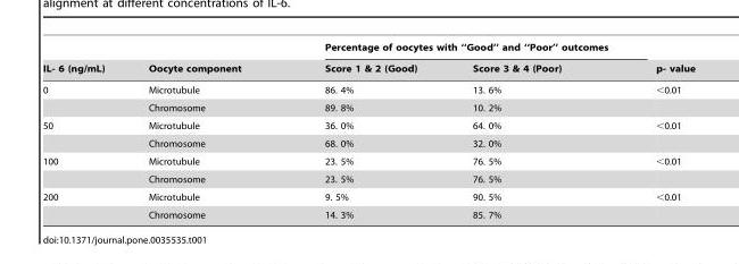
<table><thead><tr><td rowspan="2">IL- 6 (ng/mL)</td><td rowspan="2">Oocyte component</td><td colspan="2">Percentage of oocytes with ‘‘Good’’ and ‘‘Poor’’ outcomes</td><td rowspan="2">p- value</td></tr><tr><td>Score 1 &amp; 2 (Good)</td><td>Score 3 &amp; 4 (Poor)</td></tr></thead><tbody><tr><td rowspan="2">0</td><td>Microtubule</td><td>86. 4%</td><td>13. 6%</td><td>&lt;0.01</td></tr><tr><td>Chromosome</td><td>89. 8%</td><td>10. 2%</td><td></td></tr><tr><td rowspan="2">50</td><td>Microtubule</td><td>36. 0%</td><td>64. 0%</td><td>&lt;0.01</td></tr><tr><td>Chromosome</td><td>68. 0%</td><td>32. 0%</td><td></td></tr><tr><td rowspan="2">100</td><td>Microtubule</td><td>23. 5%</td><td>76. 5%</td><td>&lt;0.01</td></tr><tr><td>Chromosome</td><td>23. 5%</td><td>76. 5%</td><td></td></tr><tr><td rowspan="2">200</td><td>Microtubule</td><td>9. 5%</td><td>90. 5%</td><td>&lt;0.01</td></tr><tr><td>Chromosome</td><td>14. 3%</td><td>85. 7%</td><td></td></tr></tbody></table>